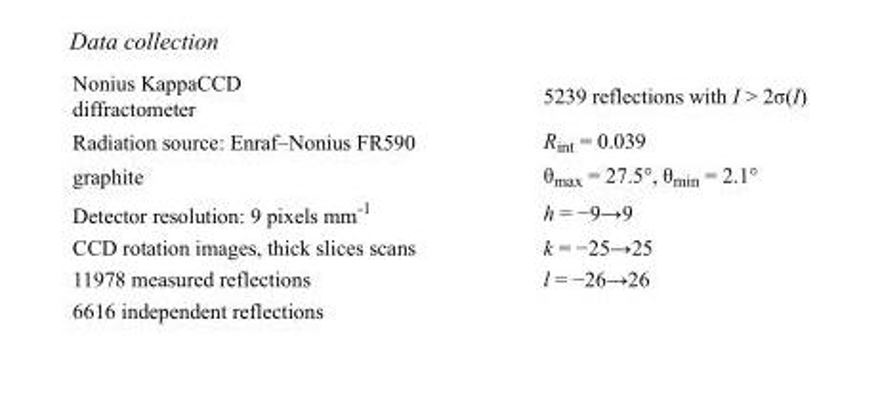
<table><tbody><tr><td>Nonius KappaCCD diffractometer</td><td>5239 reflections with I &gt; 2σ(I)</td></tr><tr><td>Radiation source: Enraf–Nonius FR590</td><td>R<sub>int</sub> = 0.039</td></tr><tr><td>graphite</td><td>θ<sub>max</sub> = 27.5°, θ<sub>min</sub> = 2.1°</td></tr><tr><td>Detector resolution: 9 pixels mm<sup>-1</sup></td><td>h = −9→9</td></tr><tr><td>CCD rotation images, thick slices scans</td><td>k = −25→25</td></tr><tr><td>11978 measured reflections</td><td>l = −26→26</td></tr><tr><td>6616 independent reflections</td><td></td></tr></tbody></table>